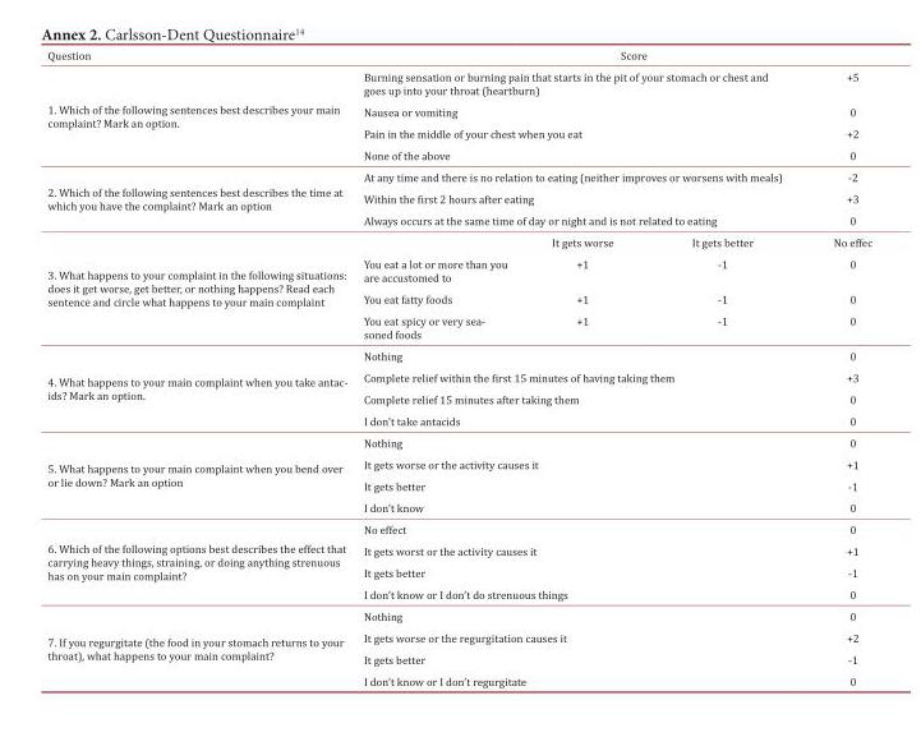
<table><thead><tr><td>Question</td><td colspan="4">Score</td></tr></thead><tbody><tr><td rowspan="4">1. Which of the following sentences best describes your main complaint? Mark an option.</td><td colspan="3">Burning sensation or burning pain that starts in the pit of your stomach or chest and goes up into your throat (heartburn)</td><td>+5</td></tr><tr><td colspan="3">Nausea or vomiting</td><td>0</td></tr><tr><td colspan="3">Pain in the middle of your chest when you eat</td><td>+2</td></tr><tr><td colspan="3">None of the above</td><td>0</td></tr><tr><td rowspan="3">2. Which of the following sentences best describes the time at which you have the complaint? Mark an option</td><td colspan="3">At any time and there is no relation to eating (neither improves or worsens with meals)</td><td>-2</td></tr><tr><td colspan="3">Within the first 2 hours after eating</td><td>+3</td></tr><tr><td colspan="3">Always occurs at the same time of day or night and is not related to eating</td><td>0</td></tr><tr><td rowspan="4">3. What happens to your complaint in the following situations: does it get worse, get better, or nothing happens? Read each sentence and circle what happens to your main complaint</td><td></td><td>It gets worse</td><td>It gets better</td><td>No effec</td></tr><tr><td>You eat a lot or more than you are accustomed to</td><td>+1</td><td>-1</td><td>0</td></tr><tr><td>You eat fatty foods</td><td>+1</td><td>-1</td><td>0</td></tr><tr><td>You eat spicy or very sea- soned foods</td><td>+1</td><td>-1</td><td>0</td></tr><tr><td rowspan="4">4. What happens to your main complaint when you take antac- ids? Mark an option.</td><td colspan="3">Nothing</td><td>0</td></tr><tr><td colspan="3">Complete relief within the first 15 minutes of having taking them</td><td>+3</td></tr><tr><td colspan="3">Complete relief 15 minutes after taking them</td><td>0</td></tr><tr><td colspan="3">I don’t take antacids</td><td>0</td></tr><tr><td rowspan="4">5. What happens to your main complaint when you bend over or lie down? Mark an option</td><td colspan="3">Nothing</td><td>0</td></tr><tr><td colspan="3">It gets worse or the activity causes it</td><td>+1</td></tr><tr><td colspan="3">It gets better</td><td>-1</td></tr><tr><td colspan="3">I don’t know</td><td>0</td></tr><tr><td rowspan="4">6. Which of the following options best describes the effect that carrying heavy things, straining, or doing anything strenuous has on your main complaint?</td><td colspan="3">No effect</td><td>0</td></tr><tr><td colspan="3">It gets worst or the activity causes it</td><td>+1</td></tr><tr><td colspan="3">It gets better</td><td>-1</td></tr><tr><td colspan="3">I don’t know or I don’t do strenuous things</td><td>0</td></tr><tr><td rowspan="4">7. If you regurgitate (the food in your stomach returns to your throat), what happens to your main complaint?</td><td colspan="3">Nothing</td><td>0</td></tr><tr><td colspan="3">It gets worse or the regurgitation causes it</td><td>+2</td></tr><tr><td colspan="3">It gets better</td><td>-1</td></tr><tr><td colspan="3">I don’t know or I don’t regurgitate</td><td>0</td></tr></tbody></table>